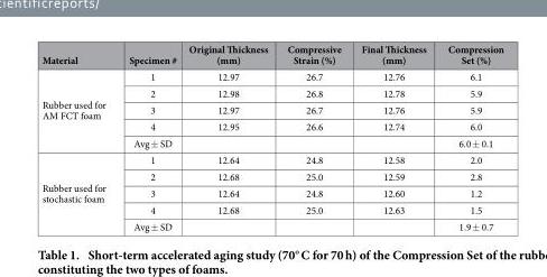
<table><thead><tr><td>Material</td><td>Specimen #</td><td>Original Thickness (mm)</td><td>Compressive Strain (%)</td><td>Final Thickness (mm)</td><td>Compression Set (%)</td></tr></thead><tbody><tr><td rowspan="5">Rubber used for AM FCT foam</td><td>1</td><td>12.97</td><td>26.7</td><td>12.76</td><td>6.1</td></tr><tr><td>2</td><td>12.98</td><td>26.8</td><td>12.78</td><td>5.9</td></tr><tr><td>3</td><td>12.97</td><td>26.7</td><td>12.76</td><td>5.9</td></tr><tr><td>4</td><td>12.95</td><td>26.6</td><td>12.74</td><td>6.0</td></tr><tr><td>Avg ± SD</td><td></td><td></td><td></td><td>6.0 ± 0.1</td></tr><tr><td rowspan="5">Rubber used for stochastic foam</td><td>1</td><td>12.64</td><td>24.8</td><td>12.58</td><td>2.0</td></tr><tr><td>2</td><td>12.68</td><td>25.0</td><td>12.59</td><td>2.8</td></tr><tr><td>3</td><td>12.64</td><td>24.8</td><td>12.60</td><td>1.2</td></tr><tr><td>4</td><td>12.68</td><td>25.0</td><td>12.63</td><td>1.5</td></tr><tr><td>Avg ± SD</td><td></td><td></td><td></td><td>1.9 ± 0.7</td></tr></tbody></table>